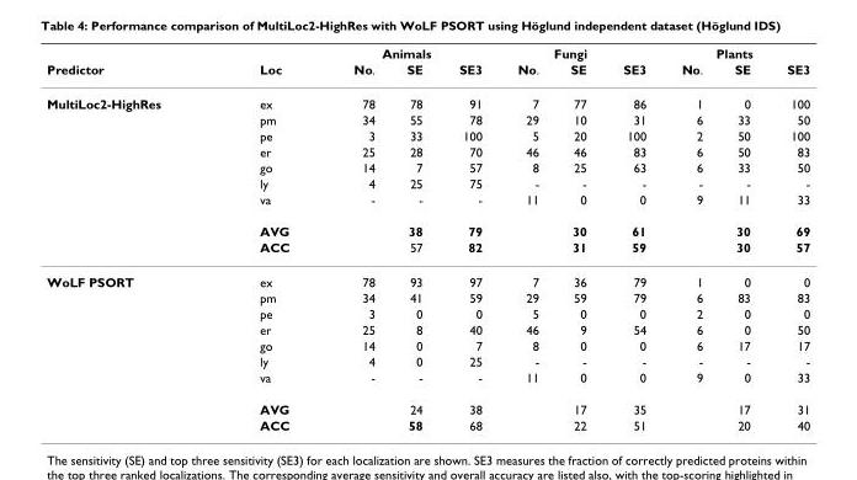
<table><thead><tr><td rowspan="2">Predictor</td><td rowspan="2">Loc</td><td colspan="3">Animals</td><td colspan="3">Fungi</td><td colspan="3">Plants</td></tr><tr><td>No.</td><td>SE</td><td>SE3</td><td>No.</td><td>SE</td><td>SE3</td><td>No.</td><td>SE</td><td>SE3</td></tr></thead><tbody><tr><td rowspan="9">MultiLoc2-HighRes</td><td>ex</td><td>78</td><td>78</td><td>91</td><td>7</td><td>77</td><td>86</td><td>1</td><td>0</td><td>100</td></tr><tr><td>pm</td><td>34</td><td>55</td><td>78</td><td>29</td><td>10</td><td>31</td><td>6</td><td>33</td><td>50</td></tr><tr><td>pe</td><td>3</td><td>33</td><td>100</td><td>5</td><td>20</td><td>100</td><td>2</td><td>50</td><td>100</td></tr><tr><td>er</td><td>25</td><td>28</td><td>70</td><td>46</td><td>46</td><td>83</td><td>6</td><td>50</td><td>83</td></tr><tr><td>go</td><td>14</td><td>7</td><td>57</td><td>8</td><td>25</td><td>63</td><td>6</td><td>33</td><td>50</td></tr><tr><td>ly</td><td>4</td><td>25</td><td>75</td><td>-</td><td>-</td><td>-</td><td>-</td><td>-</td><td>-</td></tr><tr><td>va</td><td>-</td><td>-</td><td>-</td><td>11</td><td>0</td><td>0</td><td>9</td><td>11</td><td>33</td></tr><tr><td>AVG</td><td></td><td>38</td><td>79</td><td></td><td>30</td><td>61</td><td></td><td>30</td><td>69</td></tr><tr><td>ACC</td><td></td><td>57</td><td>82</td><td></td><td>31</td><td>59</td><td></td><td>30</td><td>57</td></tr><tr><td rowspan="9">WoLF PSORT</td><td>ex</td><td>78</td><td>93</td><td>97</td><td>7</td><td>36</td><td>79</td><td>1</td><td>0</td><td>0</td></tr><tr><td>pm</td><td>34</td><td>41</td><td>59</td><td>29</td><td>59</td><td>79</td><td>6</td><td>83</td><td>83</td></tr><tr><td>pe</td><td>3</td><td>0</td><td>0</td><td>5</td><td>0</td><td>0</td><td>2</td><td>0</td><td>0</td></tr><tr><td>er</td><td>25</td><td>8</td><td>40</td><td>46</td><td>9</td><td>54</td><td>6</td><td>0</td><td>50</td></tr><tr><td>go</td><td>14</td><td>0</td><td>7</td><td>8</td><td>0</td><td>0</td><td>6</td><td>17</td><td>17</td></tr><tr><td>ly</td><td>4</td><td>0</td><td>25</td><td>-</td><td>-</td><td>-</td><td>-</td><td>-</td><td>-</td></tr><tr><td>va</td><td>-</td><td>-</td><td>-</td><td>11</td><td>0</td><td>0</td><td>9</td><td>0</td><td>33</td></tr><tr><td>AVG</td><td></td><td>24</td><td>38</td><td></td><td>17</td><td>35</td><td></td><td>17</td><td>31</td></tr><tr><td>ACC</td><td></td><td>58</td><td>68</td><td></td><td>22</td><td>51</td><td></td><td>20</td><td>40</td></tr></tbody></table>